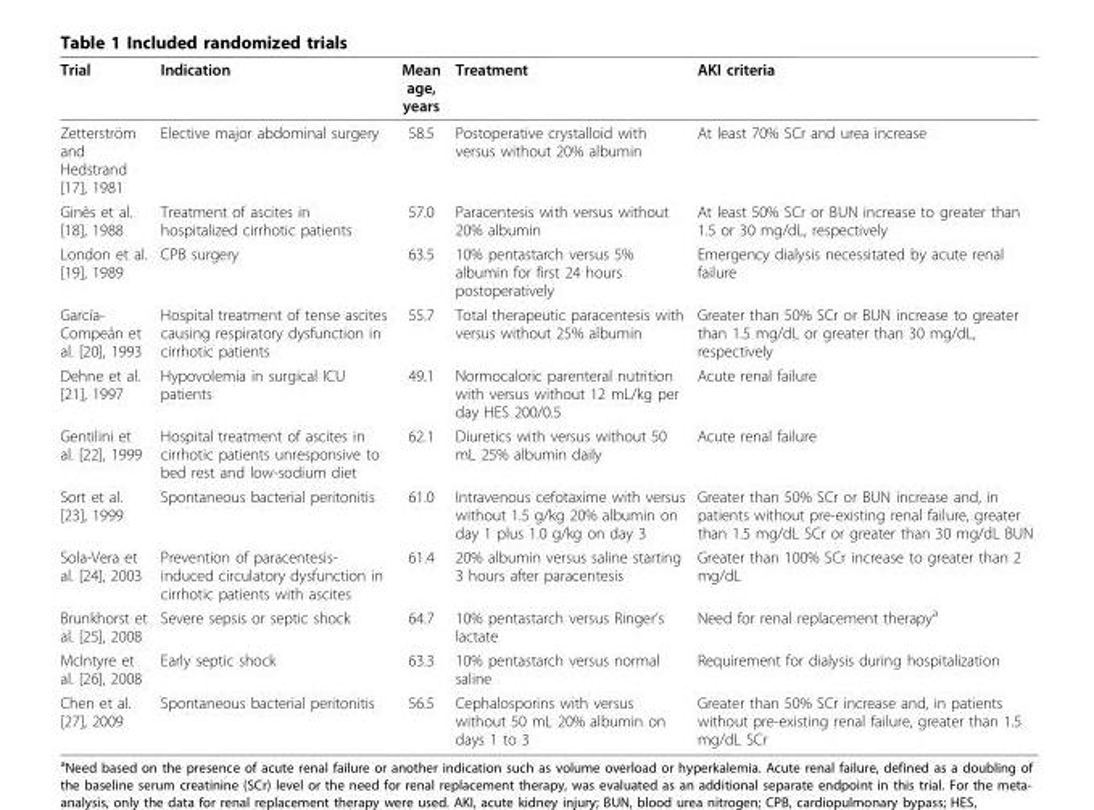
<table><thead><tr><td>Trial</td><td>Indication</td><td>Mean age, years</td><td>Treatment</td><td>AKI criteria</td></tr></thead><tbody><tr><td>Zetterström and Hedstrand [17], 1981</td><td>Elective major abdominal surgery</td><td>58.5</td><td>Postoperative crystalloid with versus without 20% albumin</td><td>At least 70% SCr and urea increase</td></tr><tr><td>Ginès et al. [18], 1988</td><td>Treatment of ascites in hospitalized cirrhotic patients</td><td>57.0</td><td>Paracentesis with versus without 20% albumin</td><td>At least 50% SCr or BUN increase to greater than 1.5 or 30 mg/dL, respectively</td></tr><tr><td>London et al. [19], 1989</td><td>CPB surgery</td><td>63.5</td><td>10% pentastarch versus 5% albumin for first 24 hours postoperatively</td><td>Emergency dialysis necessitated by acute renal failure</td></tr><tr><td>García- Compeán et al. [20], 1993</td><td>Hospital treatment of tense ascites causing respiratory dysfunction in cirrhotic patients</td><td>55.7</td><td>Total therapeutic paracentesis with versus without 25% albumin</td><td>Greater than 50% SCr or BUN increase to greater than 1.5 mg/dL or greater than 30 mg/dL, respectively</td></tr><tr><td>Dehne et al. [21], 1997</td><td>Hypovolemia in surgical ICU patients</td><td>49.1</td><td>Normocaloric parenteral nutrition with versus without 12 mL/kg per day HES 200/0.5</td><td>Acute renal failure</td></tr><tr><td>Gentilini et al. [22], 1999</td><td>Hospital treatment of ascites in cirrhotic patients unresponsive to bed rest and low-sodium diet</td><td>62.1</td><td>Diuretics with versus without 50 mL 25% albumin daily</td><td>Acute renal failure</td></tr><tr><td>Sort et al. [23], 1999</td><td>Spontaneous bacterial peritonitis</td><td>61.0</td><td>Intravenous cefotaxime with versus without 1.5 g/kg 20% albumin on day 1 plus 1.0 g/kg on day 3</td><td>Greater than 50% SCr or BUN increase and, in patients without pre-existing renal failure, greater than 1.5 mg/dL SCr or greater than 30 mg/dL BUN</td></tr><tr><td>Sola-Vera et al. [24], 2003</td><td>Prevention of paracentesis- induced circulatory dysfunction in cirrhotic patients with ascites</td><td>61.4</td><td>20% albumin versus saline starting 3 hours after paracentesis</td><td>Greater than 100% SCr increase to greater than 2 mg/dL</td></tr><tr><td>Brunkhorst et al. [25], 2008</td><td>Severe sepsis or septic shock</td><td>64.7</td><td>10% pentastarch versus Ringer’s lactate</td><td>Need for renal replacement therapy<sup>a</sup></td></tr><tr><td>McIntyre et al. [26], 2008</td><td>Early septic shock</td><td>63.3</td><td>10% pentastarch versus normal saline</td><td>Requirement for dialysis during hospitalization</td></tr><tr><td>Chen et al. [27], 2009</td><td>Spontaneous bacterial peritonitis</td><td>56.5</td><td>Cephalosporins with versus without 50 mL 20% albumin on days 1 to 3</td><td>Greater than 50% SCr increase and, in patients without pre-existing renal failure, greater than 1.5 mg/dL SCr</td></tr></tbody></table>